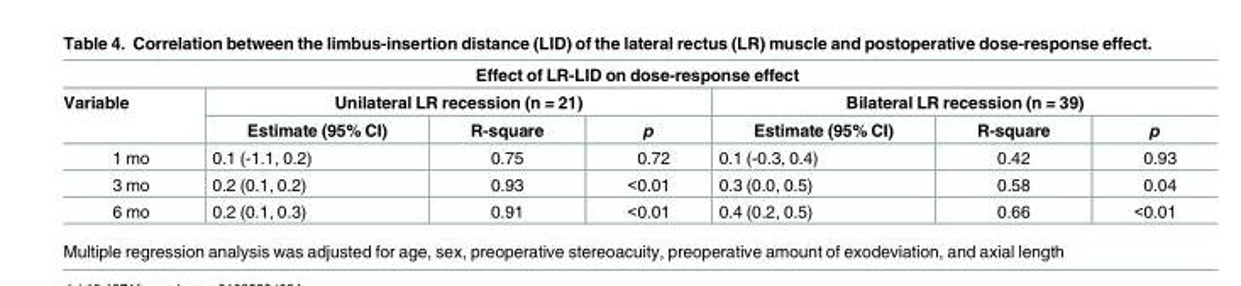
<table><thead><tr><td colspan="7">Effect of LR-LID on dose-response effect</td></tr><tr><td rowspan="2">Variable</td><td colspan="3">Unilateral LR recession (n = 21)</td><td colspan="3">Bilateral LR recession (n = 39)</td></tr><tr><td>Estimate (95% CI)</td><td>R-square</td><td>p</td><td>Estimate (95% CI)</td><td>R-square</td><td>p</td></tr></thead><tbody><tr><td>1 mo</td><td>0.1 (-1.1, 0.2)</td><td>0.75</td><td>0.72</td><td>0.1 (-0.3, 0.4)</td><td>0.42</td><td>0.93</td></tr><tr><td>3 mo</td><td>0.2 (0.1, 0.2)</td><td>0.93</td><td>&lt;0.01</td><td>0.3 (0.0, 0.5)</td><td>0.58</td><td>0.04</td></tr><tr><td>6 mo</td><td>0.2 (0.1, 0.3)</td><td>0.91</td><td>&lt;0.01</td><td>0.4 (0.2, 0.5)</td><td>0.66</td><td>&lt;0.01</td></tr></tbody></table>